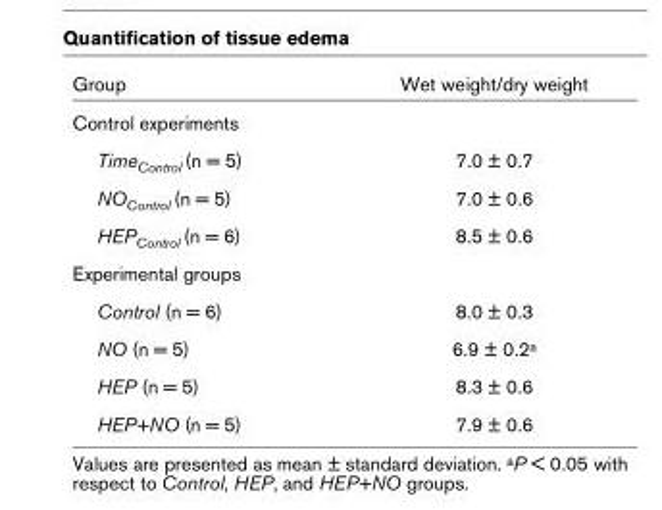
<table><thead><tr><td>Group</td><td>Wet weight/dry weight</td></tr></thead><tbody><tr><td colspan="2">Control experiments</td></tr><tr><td>Time<sub>Control</sub> (n = 5)</td><td>7.0 ± 0.7</td></tr><tr><td>NO<sub>Control</sub> (n = 5)</td><td>7.0 ± 0.6</td></tr><tr><td>HEP<sub>Control</sub> (n = 6)</td><td>8.5 ± 0.6</td></tr><tr><td colspan="2">Experimental groups</td></tr><tr><td>Control (n = 6)</td><td>8.0 ± 0.3</td></tr><tr><td>NO (n = 5)</td><td>6.9 ± 0.2<sup>a</sup></td></tr><tr><td>HEP (n = 5)</td><td>8.3 ± 0.6</td></tr><tr><td>HEP+NO (n = 5)</td><td>7.9 ± 0.6</td></tr></tbody></table>